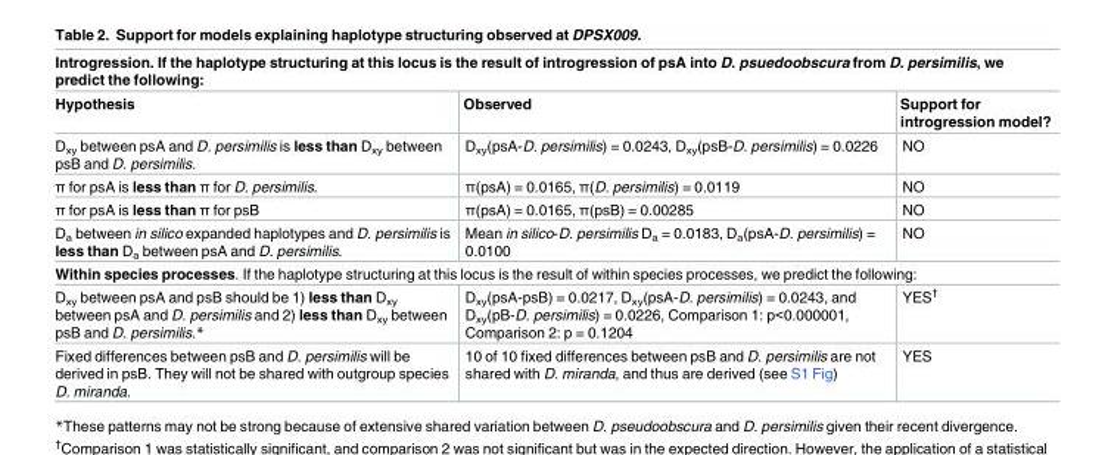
<table><thead><tr><td colspan="3">Introgression. If the haplotype structuring at this locus is the result of introgression of psA into D. psuedoobscura from D. persimilis, we predict the following:</td></tr><tr><td>Hypothesis</td><td>Observed</td><td>Support for introgression model?</td></tr></thead><tbody><tr><td>D<sub>xy</sub> between psA and D. persimilis is less than D<sub>xy</sub> between psB and D. persimilis.</td><td>D<sub>xy</sub>(psA-D. persimilis) = 0.0243, D<sub>xy</sub>(psB-D. persimilis) = 0.0226</td><td>NO</td></tr><tr><td>π for psA is less than π for D. persimilis.</td><td>π(psA) = 0.0165, π(D. persimilis) = 0.0119</td><td>NO</td></tr><tr><td>π for psA is less than π for psB</td><td>π(psA) = 0.0165, π(psB) = 0.00285</td><td>NO</td></tr><tr><td>D<sub>a</sub> between in silico expanded haplotypes and D. persimilis is less than D<sub>a</sub> between psA and D. persimilis.</td><td>Mean in silico-D. persimilis D<sub>a</sub> = 0.0183, D<sub>a</sub>(psA-D. persimilis) = 0.0100</td><td>NO</td></tr><tr><td colspan="3">Within species processes. If the haplotype structuring at this locus is the result of within species processes, we predict the following:</td></tr><tr><td>D<sub>xy</sub> between psA and psB should be 1) less than D<sub>xy</sub> between psA and D. persimilis and 2) less than D<sub>xy</sub> between psB and D. persimilis.*</td><td>D<sub>xy</sub>(psA-psB) = 0.0217, D<sub>xy</sub>(psA-D. persimilis) = 0.0243, and D<sub>xy</sub>(pB-D. persimilis) = 0.0226, Comparison 1: p&lt;0.000001, Comparison 2: p = 0.1204</td><td>YES<sup>†</sup></td></tr><tr><td>Fixed differences between psB and D. persimilis will be derived in psB. They will not be shared with outgroup species D. miranda.</td><td>10 of 10 fixed differences between psB and D. persimilis are not shared with D. miranda, and thus are derived (see S1 Fig)</td><td>YES</td></tr></tbody></table>